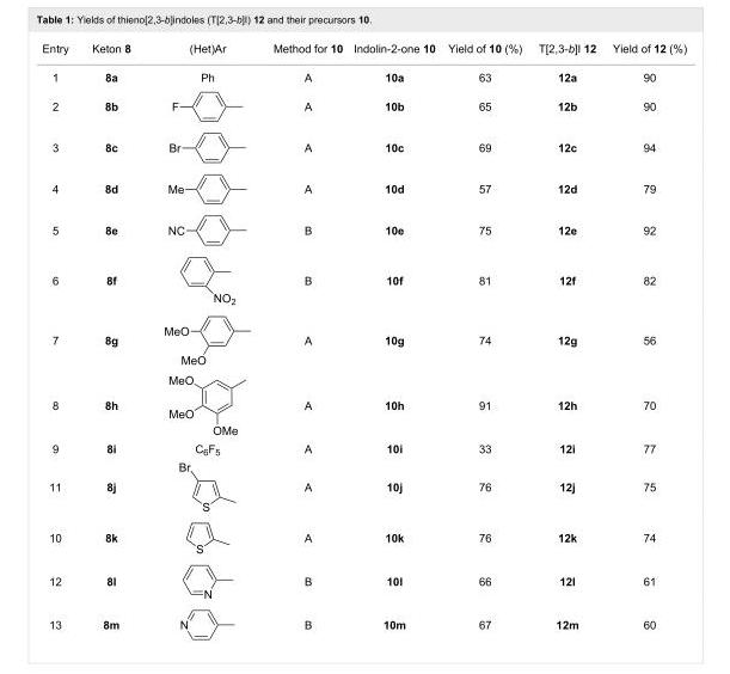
<table><tbody><tr><td>Entry</td><td>Keton 8</td><td>(Het)Ar</td><td>Method for 10</td><td>Indolin-2-one 10</td><td>Yield of 10 (%)</td><td>T[2,3-b]I 12</td><td>Yield of 12 (%)</td></tr><tr><td>1</td><td>8a</td><td>Ph</td><td>A</td><td>10a</td><td>63</td><td>12a</td><td>90</td></tr><tr><td>2</td><td>8b</td><td></td><td>A</td><td>10b</td><td>65</td><td>12b</td><td>90</td></tr><tr><td>3</td><td>8c</td><td></td><td>A</td><td>10c</td><td>69</td><td>12c</td><td>94</td></tr><tr><td>4</td><td>8d</td><td></td><td>A</td><td>10d</td><td>57</td><td>12d</td><td>79</td></tr><tr><td>5</td><td>8e</td><td></td><td>B</td><td>10e</td><td>75</td><td>12e</td><td>92</td></tr><tr><td>6</td><td>8f</td><td></td><td>B</td><td>10f</td><td>81</td><td>12f</td><td>82</td></tr><tr><td>7</td><td>8g</td><td></td><td>A</td><td>10g</td><td>74</td><td>12g</td><td>56</td></tr><tr><td>8</td><td>8h</td><td></td><td>A</td><td>10h</td><td>91</td><td>12h</td><td>70</td></tr><tr><td>9</td><td>8i</td><td>C<sub>6</sub>F<sub>5</sub></td><td>A</td><td>10i</td><td>33</td><td>12i</td><td>77</td></tr><tr><td>11</td><td>8j</td><td></td><td>A</td><td>10j</td><td>76</td><td>12j</td><td>75</td></tr><tr><td>10</td><td>8k</td><td></td><td>A</td><td>10k</td><td>76</td><td>12k</td><td>74</td></tr><tr><td>12</td><td>8l</td><td></td><td>B</td><td>10l</td><td>66</td><td>12l</td><td>61</td></tr><tr><td>13</td><td>8m</td><td></td><td>B</td><td>10m</td><td>67</td><td>12m</td><td>60</td></tr></tbody></table>